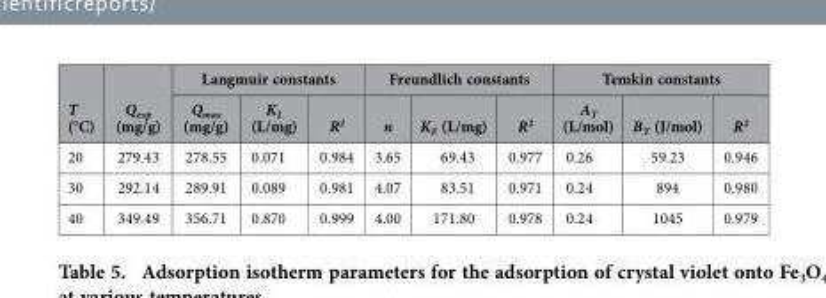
<table><thead><tr><td rowspan="2">T (°C)</td><td rowspan="2">Q<sub>exp</sub> (mg/g)</td><td colspan="3">Langmuir constants</td><td colspan="3">Freundlich constants</td><td colspan="3">Temkin constants</td></tr><tr><td>Q<sub>max</sub> (mg/g)</td><td>K<sub>L</sub> (L/mg)</td><td>R<sup>2</sup></td><td>n</td><td>K<sub>F</sub> (L/mg)</td><td>R<sup>2</sup></td><td>A<sub>T</sub> (L/mol)</td><td>B<sub>T</sub> (J/mol)</td><td>R<sup>2</sup></td></tr></thead><tbody><tr><td>20</td><td>279.43</td><td>278.55</td><td>0.071</td><td>0.984</td><td>3.65</td><td>69.43</td><td>0.977</td><td>0.26</td><td>59.23</td><td>0.946</td></tr><tr><td>30</td><td>292.14</td><td>289.91</td><td>0.089</td><td>0.981</td><td>4.07</td><td>83.51</td><td>0.971</td><td>0.24</td><td>894</td><td>0.980</td></tr><tr><td>40</td><td>349.49</td><td>356.71</td><td>0.870</td><td>0.999</td><td>4.00</td><td>171.80</td><td>0.978</td><td>0.24</td><td>1045</td><td>0.979</td></tr></tbody></table>